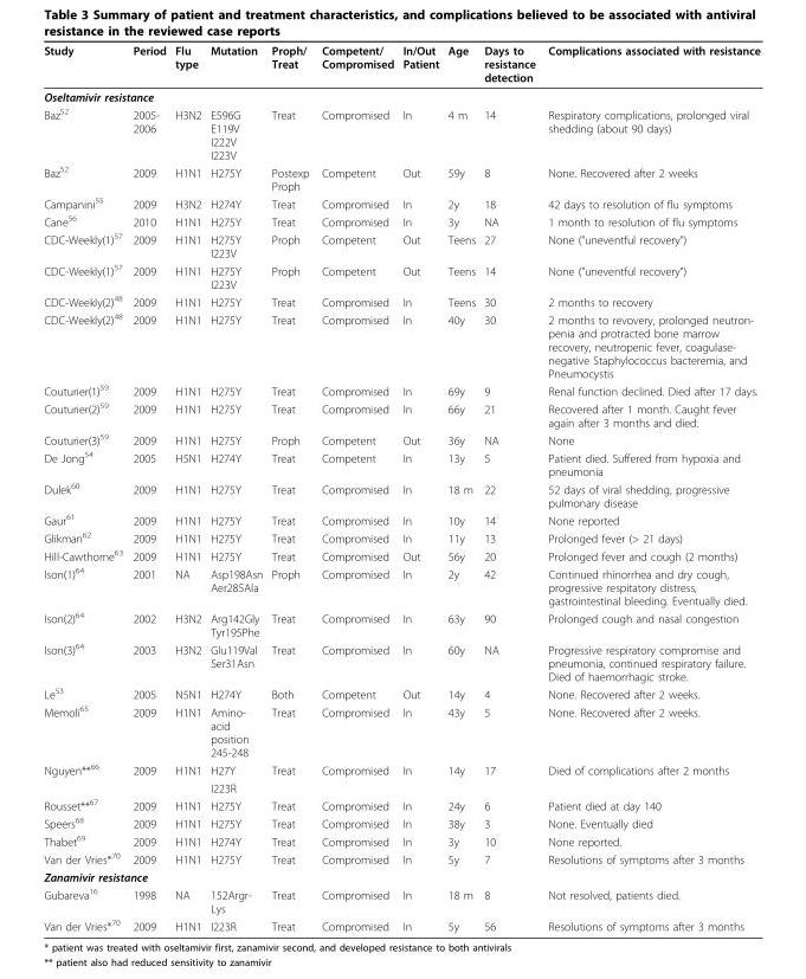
<table><thead><tr><td>Study</td><td>Period</td><td>Flu type</td><td>Mutation</td><td>Proph/ Treat</td><td>Competent/ Compromised</td><td>In/Out Patient</td><td>Age</td><td>Days to resistance detection</td><td>Complications associated with resistance</td></tr></thead><tbody><tr><td colspan="10">Oseltamivir resistance</td></tr><tr><td>Baz<sup>52</sup></td><td>2005- 2006</td><td>H3N2</td><td>E596G E119V I222V I223V</td><td>Treat</td><td>Compromised</td><td>In</td><td>4 m</td><td>14</td><td>Respiratory complications, prolonged viral shedding (about 90 days)</td></tr><tr><td>Baz<sup>52</sup></td><td>2009</td><td>H1N1</td><td>H275Y</td><td>Postexp Proph</td><td>Competent</td><td>Out</td><td>59y</td><td>8</td><td>None. Recovered after 2 weeks</td></tr><tr><td>Campanini<sup>55</sup></td><td>2009</td><td>H3N2</td><td>H274Y</td><td>Treat</td><td>Compromised</td><td>In</td><td>2y</td><td>18</td><td>42 days to resolution of flu symptoms</td></tr><tr><td>Cane<sup>56</sup></td><td>2010</td><td>H1N1</td><td>H275Y</td><td>Treat</td><td>Compromised</td><td>In</td><td>3y</td><td>NA</td><td>1 month to resolution of flu symptoms</td></tr><tr><td>CDC-Weekly(1)<sup>57</sup></td><td>2009</td><td>H1N1</td><td>H275Y I223V</td><td>Proph</td><td>Competent</td><td>Out</td><td>Teens</td><td>27</td><td>None (&quot;uneventful recovery”)</td></tr><tr><td>CDC-Weekly(1)<sup>57</sup></td><td>2009</td><td>H1N1</td><td>H275Y I223V</td><td>Proph</td><td>Competent</td><td>Out</td><td>Teens</td><td>14</td><td>None (&quot;uneventful recovery”)</td></tr><tr><td>CDC-Weekly(2)<sup>48</sup></td><td>2009</td><td>H1N1</td><td>H275Y</td><td>Treat</td><td>Compromised</td><td>In</td><td>Teens</td><td>30</td><td>2 months to recovery</td></tr><tr><td>CDC-Weekly(2)<sup>48</sup></td><td>2009</td><td>H1N1</td><td>H275Y</td><td>Treat</td><td>Compromised</td><td>In</td><td>40y</td><td>30</td><td>2 months to revovery, prolonged neutron- penia and protracted bone marrow recovery, neutropenic fever, coagulase- negative Staphylococcus bacteremia, and Pneumocystis</td></tr><tr><td>Couturier(1)<sup>59</sup></td><td>2009</td><td>H1N1</td><td>H275Y</td><td>Treat</td><td>Compromised</td><td>In</td><td>69y</td><td>9</td><td>Renal function declined. Died after 17 days.</td></tr><tr><td>Couturier(2)<sup>59</sup></td><td>2009</td><td>H1N1</td><td>H275Y</td><td>Treat</td><td>Compromised</td><td>In</td><td>66y</td><td>21</td><td>Recovered after 1 month. Caught fever again after 3 months and died.</td></tr><tr><td>Couturier(3)<sup>59</sup></td><td>2009</td><td>H1N1</td><td>H275Y</td><td>Proph</td><td>Competent</td><td>Out</td><td>36y</td><td>NA</td><td>None</td></tr><tr><td>De Jong<sup>54</sup></td><td>2005</td><td>H5N1</td><td>H274Y</td><td>Treat</td><td>Competent</td><td>In</td><td>13y</td><td>5</td><td>Patient died. Suffered from hypoxia and pneumonia</td></tr><tr><td>Dulek<sup>60</sup></td><td>2009</td><td>H1N1</td><td>H275Y</td><td>Treat</td><td>Compromised</td><td>In</td><td>18 m</td><td>22</td><td>52 days of viral shedding, progressive pulmonary disease</td></tr><tr><td>Gaur<sup>61</sup></td><td>2009</td><td>H1N1</td><td>H275Y</td><td>Treat</td><td>Compromised</td><td>In</td><td>10y</td><td>14</td><td>None reported</td></tr><tr><td>Glikman<sup>62</sup></td><td>2009</td><td>H1N1</td><td>H275Y</td><td>Treat</td><td>Compromised</td><td>In</td><td>11y</td><td>13</td><td>Prolonged fever (&gt; 21 days)</td></tr><tr><td>Hill-Cawthorne<sup>63</sup></td><td>2009</td><td>H1N1</td><td>H275Y</td><td>Treat</td><td>Compromised</td><td>Out</td><td>56y</td><td>20</td><td>Prolonged fever and cough (2 months)</td></tr><tr><td>Ison(1)<sup>64</sup></td><td>2001</td><td>NA</td><td>Asp198Asn Aer285Ala</td><td>Proph</td><td>Compromised</td><td>In</td><td>2y</td><td>42</td><td>Continued rhinorrhea and dry cough, progressive respitatory distress, gastrointestinal bleeding. Eventually died.</td></tr><tr><td>Ison(2)<sup>64</sup></td><td>2002</td><td>H3N2</td><td>Arg142Gly Tyr195Phe</td><td>Treat</td><td>Compromised</td><td>In</td><td>63y</td><td>90</td><td>Prolonged cough and nasal congestion</td></tr><tr><td>Ison(3)<sup>64</sup></td><td>2003</td><td>H3N2</td><td>Glu119Val Ser31Asn</td><td>Treat</td><td>Compromised</td><td>In</td><td>60y</td><td>NA</td><td>Progressive respiratory compromise and pneumonia, continued respiratory failure. Died of haemorrhagic stroke.</td></tr><tr><td>Le<sup>53</sup></td><td>2005</td><td>N5N1</td><td>H274Y</td><td>Both</td><td>Competent</td><td>Out</td><td>14y</td><td>4</td><td>None. Recovered after 2 weeks.</td></tr><tr><td>Memoli<sup>65</sup></td><td>2009</td><td>H1N1</td><td>Amino- acid position 245-248</td><td>Treat</td><td>Compromised</td><td>In</td><td>43y</td><td>5</td><td>None. Recovered after 2 weeks.</td></tr><tr><td rowspan="2">Nguyen**<sup>66</sup></td><td>2009</td><td>H1N1</td><td>H27Y</td><td>Treat</td><td>Compromised</td><td>In</td><td>14y</td><td>17</td><td>Died of complications after 2 months</td></tr><tr><td></td><td></td><td>I223R</td><td></td><td></td><td></td><td></td><td></td><td></td></tr><tr><td>Rousset**<sup>67</sup></td><td>2009</td><td>H1N1</td><td>H275Y</td><td>Treat</td><td>Compromised</td><td>In</td><td>24y</td><td>6</td><td>Patient died at day 140</td></tr><tr><td>Speers<sup>68</sup></td><td>2009</td><td>H1N1</td><td>H275Y</td><td>Treat</td><td>Compromised</td><td>In</td><td>38y</td><td>3</td><td>None. Eventually died</td></tr><tr><td>Thabet<sup>69</sup></td><td>2009</td><td>H1N1</td><td>H274Y</td><td>Treat</td><td>Compromised</td><td>In</td><td>3y</td><td>10</td><td>None reported.</td></tr><tr><td>Van der Vries*<sup>70</sup></td><td>2009</td><td>H1N1</td><td>H275Y</td><td>Treat</td><td>Compromised</td><td>In</td><td>5y</td><td>7</td><td>Resolutions of symptoms after 3 months</td></tr><tr><td colspan="10">Zanamivir resistance</td></tr><tr><td>Gubareva<sup>16</sup></td><td>1998</td><td>NA</td><td>152Argr- Lys</td><td>Treat</td><td>Compromised</td><td>In</td><td>18 m</td><td>8</td><td>Not resolved, patients died.</td></tr><tr><td>Van der Vries*<sup>70</sup></td><td>2009</td><td>H1N1</td><td>I223R</td><td>Treat</td><td>Compromised</td><td>In</td><td>5y</td><td>56</td><td>Resolutions of symptoms after 3 months</td></tr></tbody></table>